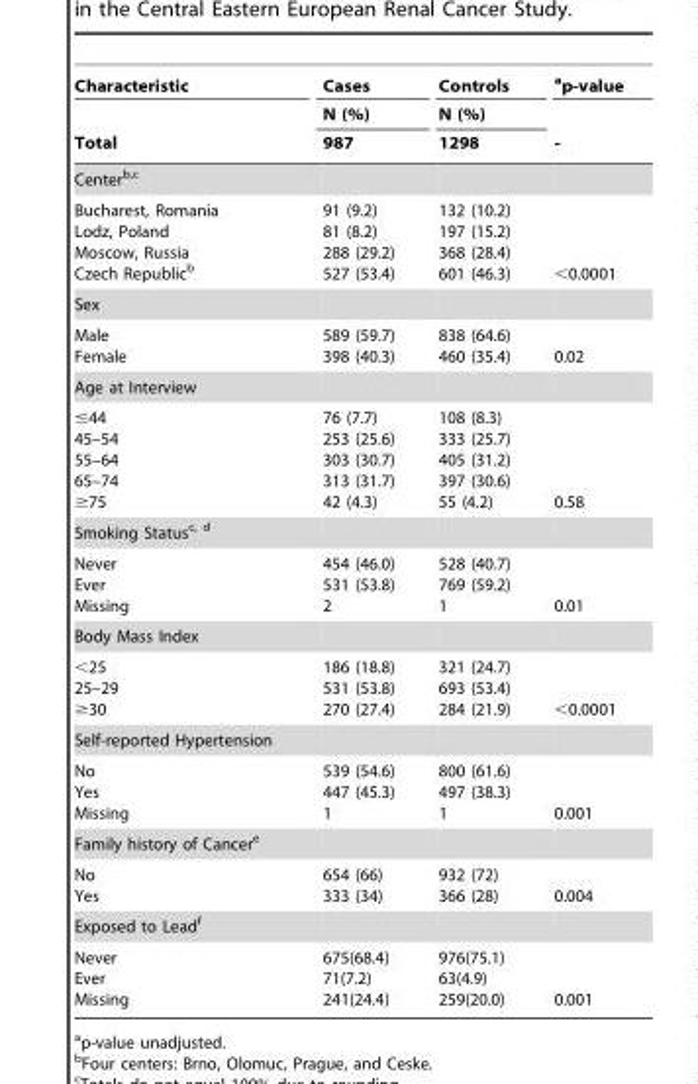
<table><thead><tr><td>Characteristic Total</td><td>Cases N (%) 987</td><td>Controls N (%) 1298</td><td>ap-value -</td></tr></thead><tbody><tr><td colspan="4">Centerb,c</td></tr><tr><td>Bucharest, Romania Lodz, Poland Moscow, Russia Czech Republic<sup>b</sup></td><td>91 (9.2) 81 (8.2) 288 (29.2) 527 (53.4)</td><td>132 (10.2) 197 (15.2) 368 (28.4) 601 (46.3)</td><td>&lt;0.0001</td></tr><tr><td colspan="4">Sex</td></tr><tr><td>Male Female</td><td>589 (59.7) 398 (40.3)</td><td>838 (64.6) 460 (35.4)</td><td>0.02</td></tr><tr><td colspan="4">Age at Interview</td></tr><tr><td>≤44 45–54 55–64 65–74 ≥75</td><td>76 (7.7) 253 (25.6) 303 (30.7) 313 (31.7) 42 (4.3)</td><td>108 (8.3) 333 (25.7) 405 (31.2) 397 (30.6) 55 (4.2)</td><td>0.58</td></tr><tr><td colspan="4">Smoking Statusc, d</td></tr><tr><td>Never Ever Missing</td><td>454 (46.0) 531 (53.8) 2</td><td>528 (40.7) 769 (59.2) 1</td><td>0.01</td></tr><tr><td colspan="4">Body Mass Index</td></tr><tr><td>&lt;25 25–29 ≥30</td><td>186 (18.8) 531 (53.8) 270 (27.4)</td><td>321 (24.7) 693 (53.4) 284 (21.9)</td><td>&lt;0.0001</td></tr><tr><td colspan="4">Self-reported Hypertension</td></tr><tr><td>No Yes Missing</td><td>539 (54.6) 447 (45.3) 1</td><td>800 (61.6) 497 (38.3) 1</td><td>0.001</td></tr><tr><td colspan="4">Family history of Cancer<sup>e</sup></td></tr><tr><td>No Yes</td><td>654 (66) 333 (34)</td><td>932 (72) 366 (28)</td><td>0.004</td></tr><tr><td colspan="4">Exposed to Lead<sup>f</sup></td></tr><tr><td>Never Ever Missing</td><td>675(68.4) 71(7.2) 241(24.4)</td><td>976(75.1) 63(4.9) 259(20.0)</td><td>0.001</td></tr></tbody></table>